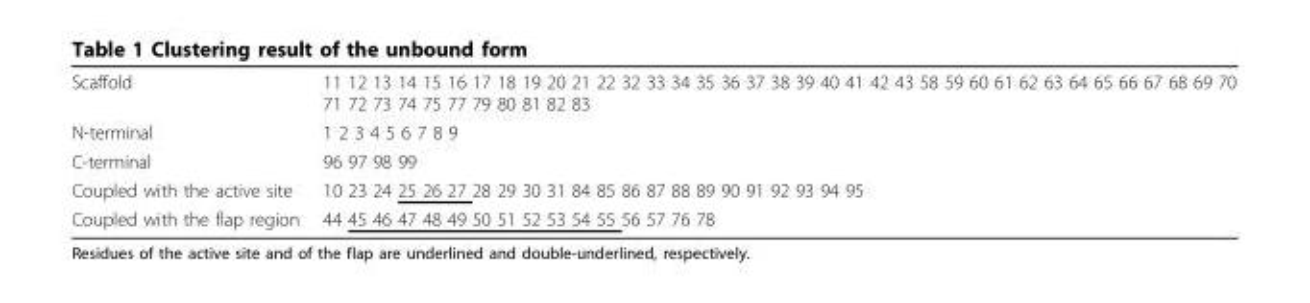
<table><tbody><tr><td>Scaffold</td><td>11 12 13 14 15 16 17 18 19 20 21 22 32 33 34 35 36 37 38 39 40 41 42 43 58 59 60 61 62 63 64 65 66 67 68 69 70 71 72 73 74 75 77 79 80 81 82 83</td></tr><tr><td>N-terminal</td><td>1 2 3 4 5 6 7 8 9</td></tr><tr><td>C-terminal</td><td>96 97 98 99</td></tr><tr><td>Coupled with the active site</td><td>10 23 24 25 26 27 28 29 30 31 84 85 86 87 88 89 90 91 92 93 94 95</td></tr><tr><td>Coupled with the flap region</td><td>44 45 46 47 48 49 50 51 52 53 54 55 56 57 76 78</td></tr></tbody></table>